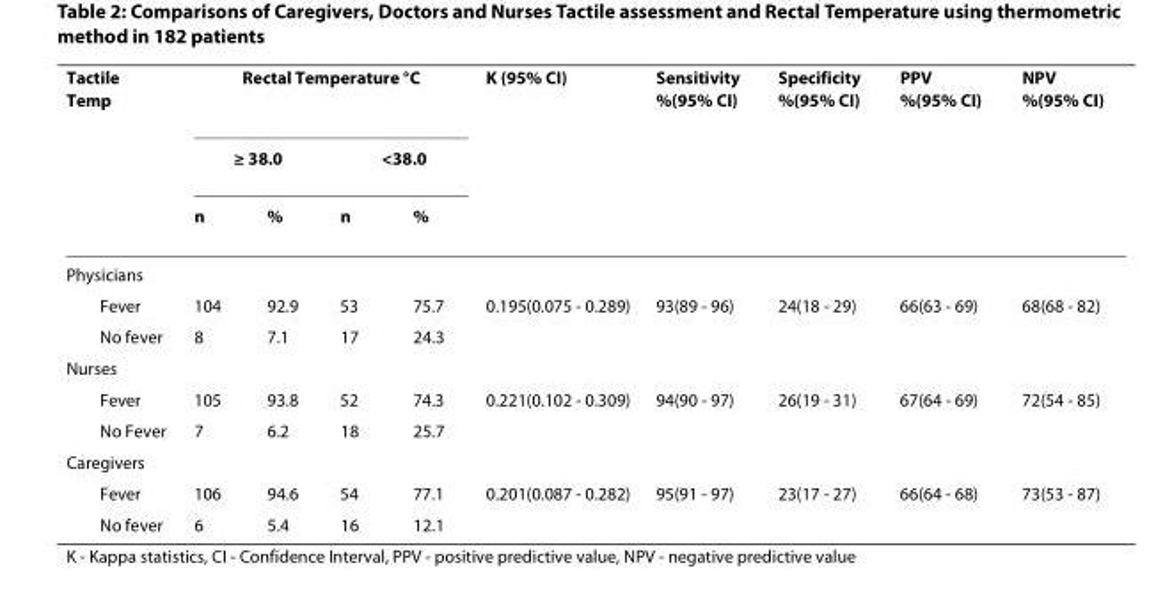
<table><thead><tr><td rowspan="3">Tactile Temp</td><td colspan="4">Rectal Temperature °C</td><td rowspan="3">K (95% CI)</td><td rowspan="3">Sensitivity %(95% CI)</td><td rowspan="3">Specificity %(95% CI)</td><td rowspan="3">PPV %(95% CI)</td><td rowspan="3">NPV %(95% CI)</td></tr><tr><td colspan="2">≥ 38.0</td><td colspan="2">&lt;38.0</td></tr><tr><td>n</td><td>%</td><td>n</td><td>%</td></tr></thead><tbody><tr><td colspan="10">Physicians</td></tr><tr><td>Fever</td><td>104</td><td>92.9</td><td>53</td><td>75.7</td><td>0.195(0.075 - 0.289)</td><td>93(89 - 96)</td><td>24(18 - 29)</td><td>66(63 - 69)</td><td>68(68 - 82)</td></tr><tr><td>No fever</td><td>8</td><td>7.1</td><td>17</td><td>24.3</td><td></td><td></td><td></td><td></td><td></td></tr><tr><td colspan="10">Nurses</td></tr><tr><td>Fever</td><td>105</td><td>93.8</td><td>52</td><td>74.3</td><td>0.221(0.102 - 0.309)</td><td>94(90 - 97)</td><td>26(19 - 31)</td><td>67(64 - 69)</td><td>72(54 - 85)</td></tr><tr><td>No Fever</td><td>7</td><td>6.2</td><td>18</td><td>25.7</td><td></td><td></td><td></td><td></td><td></td></tr><tr><td colspan="10">Caregivers</td></tr><tr><td>Fever</td><td>106</td><td>94.6</td><td>54</td><td>77.1</td><td>0.201(0.087 - 0.282)</td><td>95(91 - 97)</td><td>23(17 - 27)</td><td>66(64 - 68)</td><td>73(53 - 87)</td></tr><tr><td>No fever</td><td>6</td><td>5.4</td><td>16</td><td>12.1</td><td></td><td></td><td></td><td></td><td></td></tr></tbody></table>